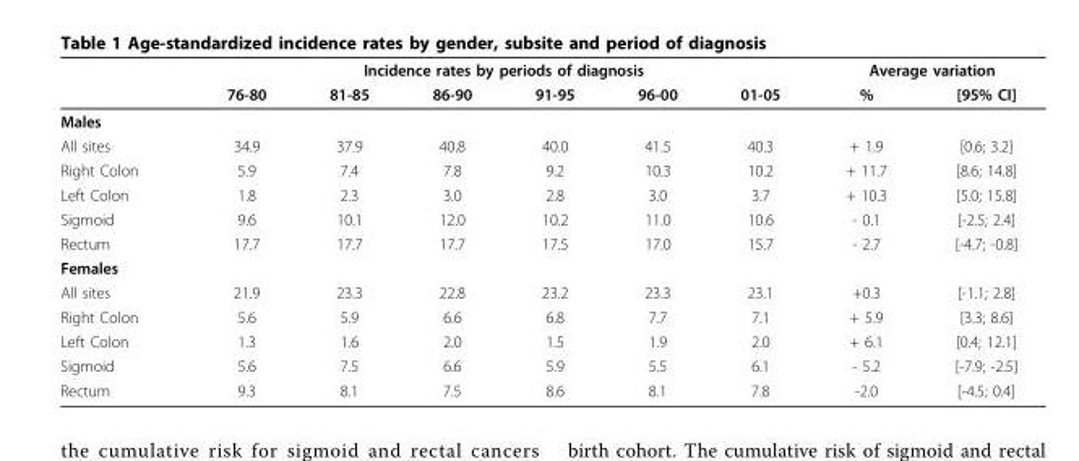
<table><thead><tr><td rowspan="2"></td><td colspan="6">Incidence rates by periods of diagnosis</td><td colspan="2">Average variation</td></tr><tr><td>76-80</td><td>81-85</td><td>86-90</td><td>91-95</td><td>96-00</td><td>01-05</td><td>%</td><td>[95% CI]</td></tr></thead><tbody><tr><td colspan="9">Males</td></tr><tr><td>All sites</td><td>34.9</td><td>37.9</td><td>40.8</td><td>40.0</td><td>41.5</td><td>40.3</td><td>+ 1.9</td><td>[0.6; 3.2]</td></tr><tr><td>Right Colon</td><td>5.9</td><td>7.4</td><td>7.8</td><td>9.2</td><td>10.3</td><td>10.2</td><td>+ 11.7</td><td>[8.6; 14.8]</td></tr><tr><td>Left Colon</td><td>1.8</td><td>2.3</td><td>3.0</td><td>2.8</td><td>3.0</td><td>3.7</td><td>+ 10.3</td><td>[5.0; 15.8]</td></tr><tr><td>Sigmoid</td><td>9.6</td><td>10.1</td><td>12.0</td><td>10.2</td><td>11.0</td><td>10.6</td><td>- 0.1</td><td>[-2.5; 2.4]</td></tr><tr><td>Rectum</td><td>17.7</td><td>17.7</td><td>17.7</td><td>17.5</td><td>17.0</td><td>15.7</td><td>- 2.7</td><td>[-4.7; -0.8]</td></tr><tr><td colspan="9">Females</td></tr><tr><td>All sites</td><td>21.9</td><td>23.3</td><td>22.8</td><td>23.2</td><td>23.3</td><td>23.1</td><td>+0.3</td><td>[-1.1; 2.8]</td></tr><tr><td>Right Colon</td><td>5.6</td><td>5.9</td><td>6.6</td><td>6.8</td><td>7.7</td><td>7.1</td><td>+ 5.9</td><td>[3.3; 8.6]</td></tr><tr><td>Left Colon</td><td>1.3</td><td>1.6</td><td>2.0</td><td>1.5</td><td>1.9</td><td>2.0</td><td>+ 6.1</td><td>[0.4; 12.1]</td></tr><tr><td>Sigmoid</td><td>5.6</td><td>7.5</td><td>6.6</td><td>5.9</td><td>5.5</td><td>6.1</td><td>- 5.2</td><td>[-7.9; -2.5]</td></tr><tr><td>Rectum</td><td>9.3</td><td>8.1</td><td>7.5</td><td>8.6</td><td>8.1</td><td>7.8</td><td>-2.0</td><td>[-4.5; 0.4]</td></tr></tbody></table>